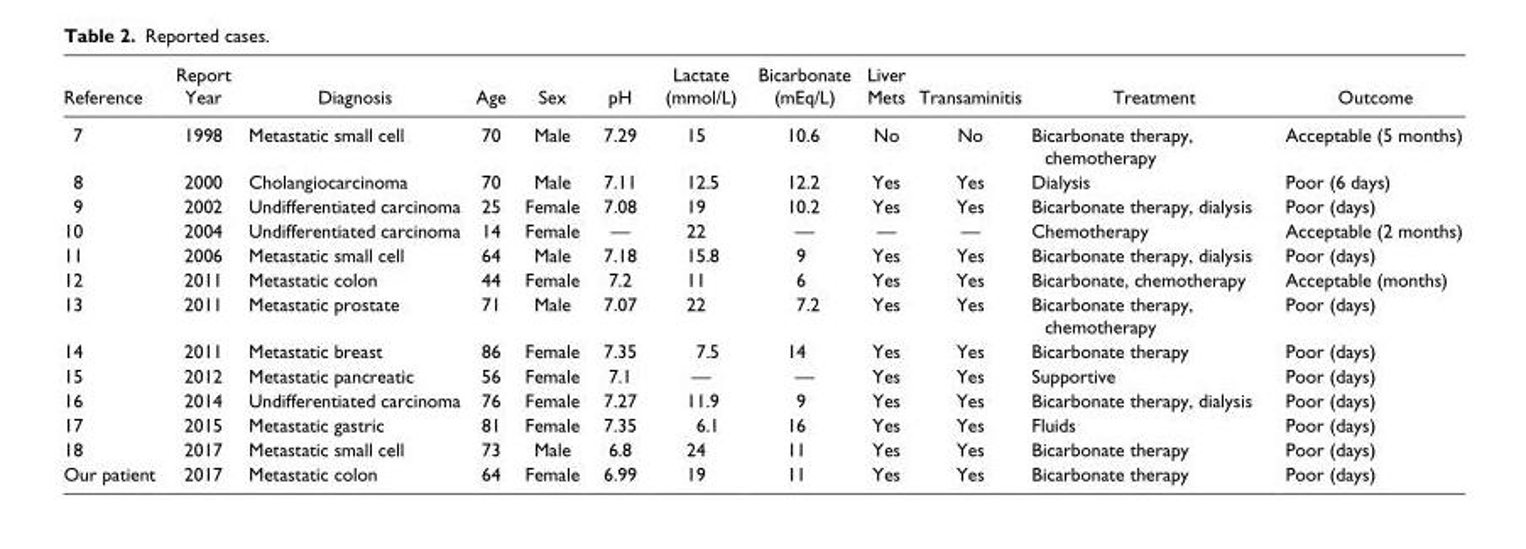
<table><thead><tr><td>Reference</td><td>Report Year</td><td>Diagnosis</td><td>Age</td><td>Sex</td><td>pH</td><td>Lactate (mmol/L)</td><td>Bicarbonate (mEq/L)</td><td>Liver Mets</td><td>Transaminitis</td><td>Treatment</td><td>Outcome</td></tr></thead><tbody><tr><td>7</td><td>1998</td><td>Metastatic small cell</td><td>70</td><td>Male</td><td>7.29</td><td>15</td><td>10.6</td><td>No</td><td>No</td><td>Bicarbonate therapy, chemotherapy</td><td>Acceptable (5 months)</td></tr><tr><td>8</td><td>2000</td><td>Cholangiocarcinoma</td><td>70</td><td>Male</td><td>7.11</td><td>12.5</td><td>12.2</td><td>Yes</td><td>Yes</td><td>Dialysis</td><td>Poor (6 days)</td></tr><tr><td>9</td><td>2002</td><td>Undifferentiated carcinoma</td><td>25</td><td>Female</td><td>7.08</td><td>19</td><td>10.2</td><td>Yes</td><td>Yes</td><td>Bicarbonate therapy, dialysis</td><td>Poor (days)</td></tr><tr><td>10</td><td>2004</td><td>Undifferentiated carcinoma</td><td>14</td><td>Female</td><td>—</td><td>22</td><td>—</td><td>—</td><td>—</td><td>Chemotherapy</td><td>Acceptable (2 months)</td></tr><tr><td>11</td><td>2006</td><td>Metastatic small cell</td><td>64</td><td>Male</td><td>7.18</td><td>15.8</td><td>9</td><td>Yes</td><td>Yes</td><td>Bicarbonate therapy, dialysis</td><td>Poor (days)</td></tr><tr><td>12</td><td>2011</td><td>Metastatic colon</td><td>44</td><td>Female</td><td>7.2</td><td>11</td><td>6</td><td>Yes</td><td>Yes</td><td>Bicarbonate, chemotherapy</td><td>Acceptable (months)</td></tr><tr><td>13</td><td>2011</td><td>Metastatic prostate</td><td>71</td><td>Male</td><td>7.07</td><td>22</td><td>7.2</td><td>Yes</td><td>Yes</td><td>Bicarbonate therapy, chemotherapy</td><td>Poor (days)</td></tr><tr><td>14</td><td>2011</td><td>Metastatic breast</td><td>86</td><td>Female</td><td>7.35</td><td>7.5</td><td>14</td><td>Yes</td><td>Yes</td><td>Bicarbonate therapy</td><td>Poor (days)</td></tr><tr><td>15</td><td>2012</td><td>Metastatic pancreatic</td><td>56</td><td>Female</td><td>7.1</td><td>—</td><td>—</td><td>Yes</td><td>Yes</td><td>Supportive</td><td>Poor (days)</td></tr><tr><td>16</td><td>2014</td><td>Undifferentiated carcinoma</td><td>76</td><td>Female</td><td>7.27</td><td>11.9</td><td>9</td><td>Yes</td><td>Yes</td><td>Bicarbonate therapy, dialysis</td><td>Poor (days)</td></tr><tr><td>17</td><td>2015</td><td>Metastatic gastric</td><td>81</td><td>Female</td><td>7.35</td><td>6.1</td><td>16</td><td>Yes</td><td>Yes</td><td>Fluids</td><td>Poor (days)</td></tr><tr><td>18</td><td>2017</td><td>Metastatic small cell</td><td>73</td><td>Male</td><td>6.8</td><td>24</td><td>11</td><td>Yes</td><td>Yes</td><td>Bicarbonate therapy</td><td>Poor (days)</td></tr><tr><td>Our patient</td><td>2017</td><td>Metastatic colon</td><td>64</td><td>Female</td><td>6.99</td><td>19</td><td>11</td><td>Yes</td><td>Yes</td><td>Bicarbonate therapy</td><td>Poor (days)</td></tr></tbody></table>